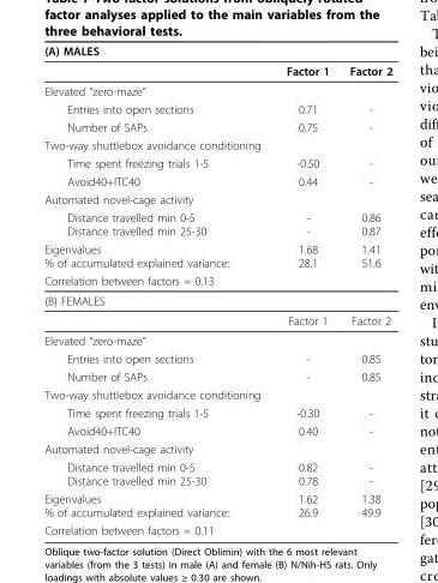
<table><thead><tr><td>(A) MALES</td><td></td><td></td></tr></thead><tbody><tr><td></td><td>Factor 1</td><td>Factor 2</td></tr><tr><td colspan="3">Elevated “zero-maze”</td></tr><tr><td>Entries into open sections</td><td>0.71</td><td>-</td></tr><tr><td>Number of SAPs</td><td>0.75</td><td>-</td></tr><tr><td colspan="3">Two-way shuttlebox avoidance conditioning</td></tr><tr><td>Time spent freezing trials 1-5</td><td>-0.50</td><td>-</td></tr><tr><td>Avoid40+ITC40</td><td>0.44</td><td>-</td></tr><tr><td colspan="3">Automated novel-cage activity</td></tr><tr><td>Distance travelled min 0-5 Distance travelled min 25-30</td><td>- -</td><td>0.86 0.87</td></tr><tr><td>Eigenvalues % of accumulated explained variance:</td><td>1.68 28.1</td><td>1.41 51.6</td></tr><tr><td colspan="3">Correlation between factors = 0.13</td></tr><tr><td colspan="3">(B) FEMALES</td></tr><tr><td></td><td>Factor 1</td><td>Factor 2</td></tr><tr><td colspan="3">Elevated “zero-maze”</td></tr><tr><td>Entries into open sections</td><td>-</td><td>0.85</td></tr><tr><td>Number of SAPs</td><td>-</td><td>0.85</td></tr><tr><td colspan="3">Two-way shuttlebox avoidance conditioning</td></tr><tr><td>Time spent freezing trials 1-5</td><td>-0.30</td><td>-</td></tr><tr><td>Avoid40+ITC40</td><td>0.40</td><td>-</td></tr><tr><td colspan="3">Automated novel-cage activity</td></tr><tr><td>Distance travelled min 0-5 Distance travelled min 25-30</td><td>0.82 0.78</td><td>- -</td></tr><tr><td>Eigenvalues % of accumulated explained variance:</td><td>1.62 26.9</td><td>1.38 49.9</td></tr><tr><td>Correlation between factors = 0.11</td><td></td><td></td></tr></tbody></table>